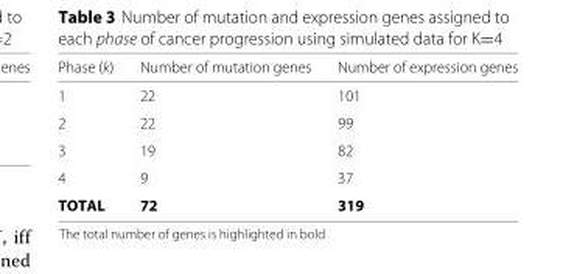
<table><thead><tr><td>Phase (k)</td><td>Number of mutation genes</td><td>Number of expression genes</td></tr></thead><tbody><tr><td>1</td><td>22</td><td>101</td></tr><tr><td>2</td><td>22</td><td>99</td></tr><tr><td>3</td><td>19</td><td>82</td></tr><tr><td>4</td><td>9</td><td>37</td></tr><tr><td>TOTAL</td><td>72</td><td>319</td></tr></tbody></table>